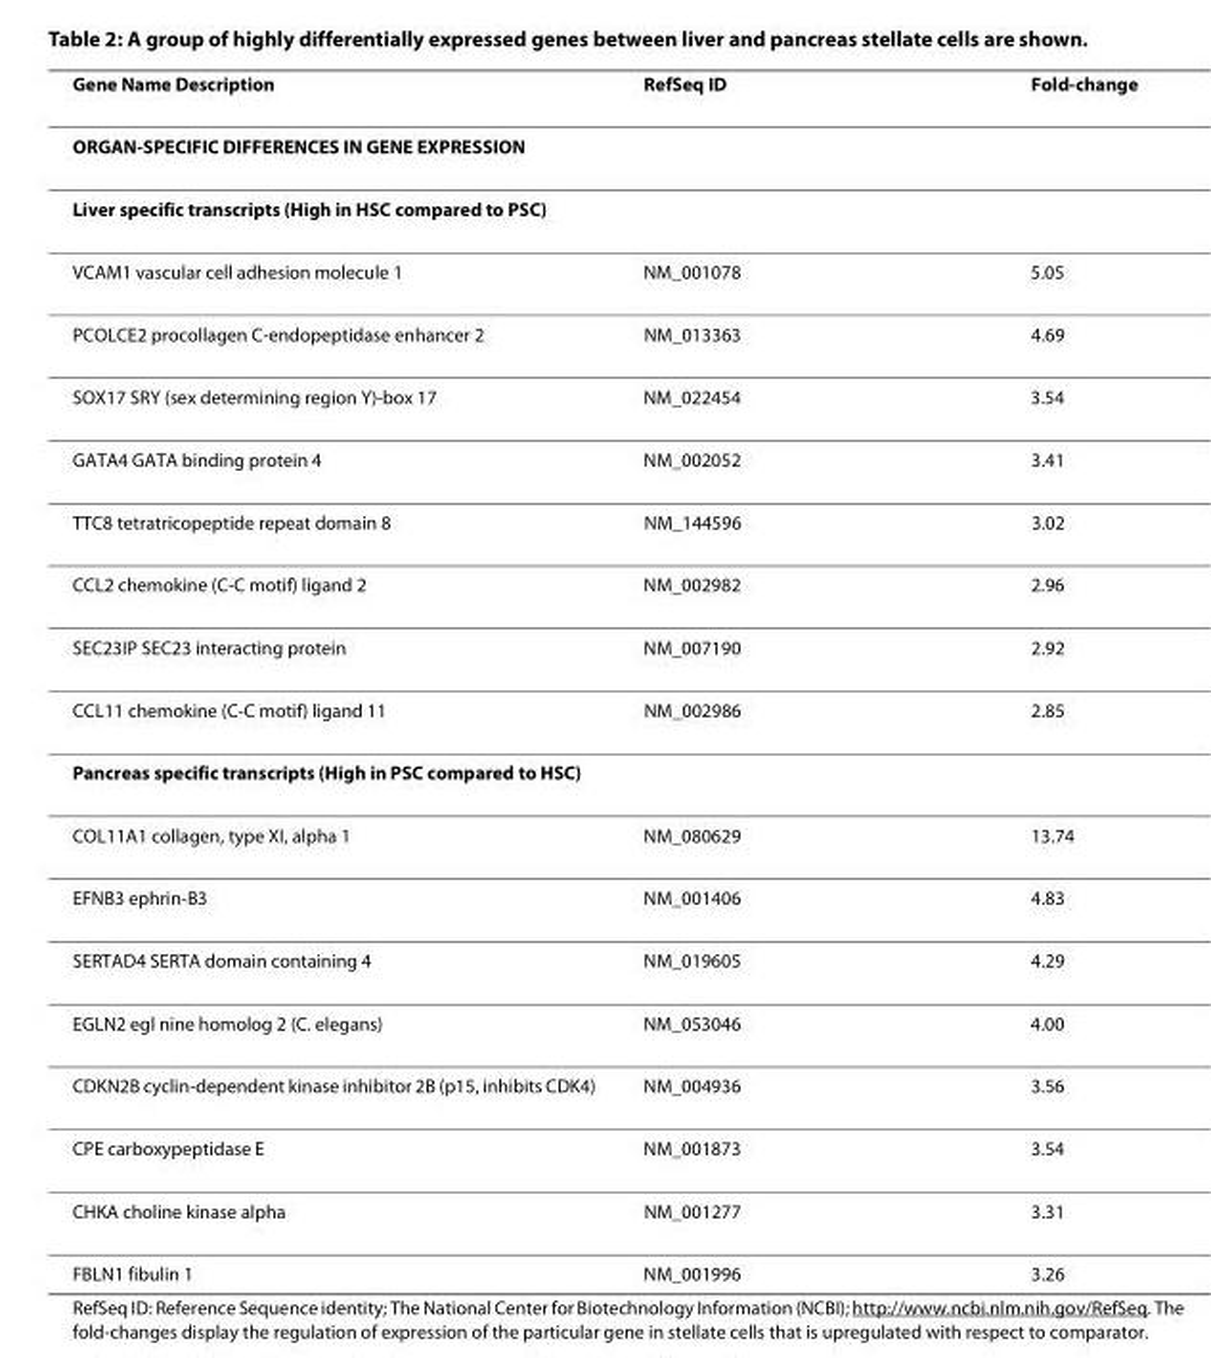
<table><thead><tr><td>Gene Name Description</td><td>RefSeq ID</td><td>Fold-change</td></tr></thead><tbody><tr><td colspan="3">ORGAN-SPECIFIC DIFFERENCES IN GENE EXPRESSION</td></tr><tr><td colspan="3">Liver specific transcripts (High in HSC compared to PSC)</td></tr><tr><td>VCAM1 vascular cell adhesion molecule 1</td><td>NM_001078</td><td>5.05</td></tr><tr><td>PCOLCE2 procollagen C-endopeptidase enhancer 2</td><td>NM_013363</td><td>4.69</td></tr><tr><td>SOX17 SRY (sex determining region Y)-box 17</td><td>NM_022454</td><td>3.54</td></tr><tr><td>GATA4 GATA binding protein 4</td><td>NM_002052</td><td>3.41</td></tr><tr><td>TTC8 tetratricopeptide repeat domain 8</td><td>NM_144596</td><td>3.02</td></tr><tr><td>CCL2 chemokine (C-C motif) ligand 2</td><td>NM_002982</td><td>2.96</td></tr><tr><td>SEC23IP SEC23 interacting protein</td><td>NM_007190</td><td>2.92</td></tr><tr><td>CCL11 chemokine (C-C motif) ligand 11</td><td>NM_002986</td><td>2.85</td></tr><tr><td colspan="3">Pancreas specific transcripts (High in PSC compared to HSC)</td></tr><tr><td>COL11A1 collagen, type XI, alpha 1</td><td>NM_080629</td><td>13.74</td></tr><tr><td>EFNB3 ephrin-B3</td><td>NM_001406</td><td>4.83</td></tr><tr><td>SERTAD4 SERTA domain containing 4</td><td>NM_019605</td><td>4.29</td></tr><tr><td>EGLN2 egl nine homolog 2 (C. elegans)</td><td>NM_053046</td><td>4.00</td></tr><tr><td>CDKN2B cyclin-dependent kinase inhibitor 2B (p15, inhibits CDK4)</td><td>NM_004936</td><td>3.56</td></tr><tr><td>CPE carboxypeptidase E</td><td>NM_001873</td><td>3.54</td></tr><tr><td>CHKA choline kinase alpha</td><td>NM_001277</td><td>3.31</td></tr><tr><td>FBLN1 fibulin 1</td><td>NM_001996</td><td>3.26</td></tr></tbody></table>